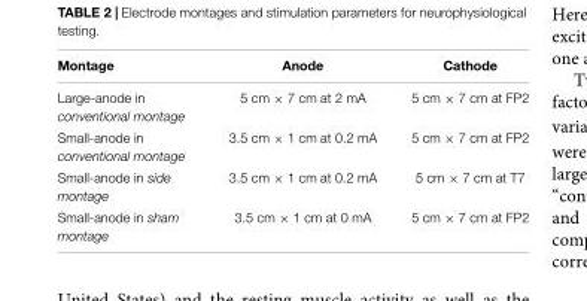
<table><thead><tr><td>Montage</td><td>Anode</td><td>Cathode</td></tr></thead><tbody><tr><td>Large-anode in conventional montage</td><td>5 cm × 7 cm at 2 mA</td><td>5 cm × 7 cm at FP2</td></tr><tr><td>Small-anode in conventional montage</td><td>3.5 cm × 1 cm at 0.2 mA</td><td>5 cm × 7 cm at FP2</td></tr><tr><td>Small-anode in side montage</td><td>3.5 cm × 1 cm at 0.2 mA</td><td>5 cm × 7 cm at T7</td></tr><tr><td>Small-anode in sham montage</td><td>3.5 cm × 1 cm at 0 mA</td><td>5 cm × 7 cm at FP2</td></tr></tbody></table>